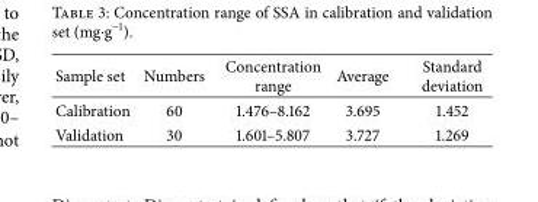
<table><thead><tr><td>Sample set</td><td>Numbers</td><td>Concentration range</td><td>Average</td><td>Standard deviation</td></tr></thead><tbody><tr><td>Calibration</td><td>60</td><td>1.476–8.162</td><td>3.695</td><td>1.452</td></tr><tr><td>Validation</td><td>30</td><td>1.601–5.807</td><td>3.727</td><td>1.269</td></tr></tbody></table>